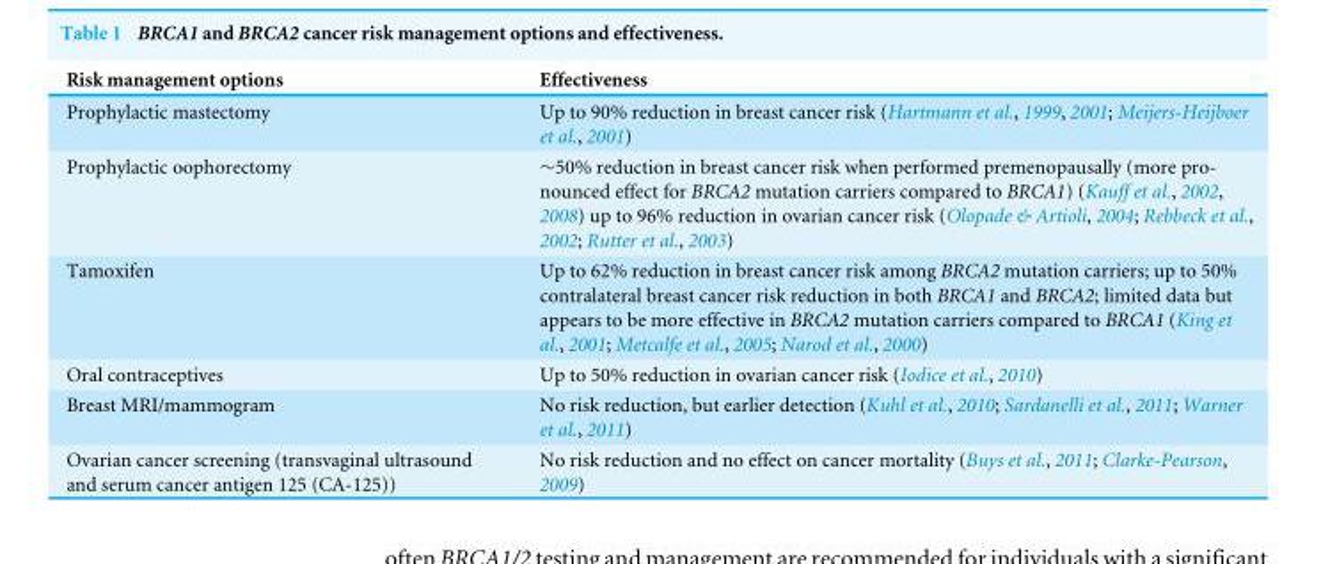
<table><thead><tr><td>Risk management options</td><td>Effectiveness</td></tr></thead><tbody><tr><td>Prophylactic mastectomy</td><td>Up to 90% reduction in breast cancer risk (Hartmann et al., 1999, 2001; Meijers-Heijboer et al., 2001)</td></tr><tr><td>Prophylactic oophorectomy</td><td>∼50% reduction in breast cancer risk when performed premenopausally (more pro- nounced effect for BRCA2 mutation carriers compared to BRCA1) (Kauff et al., 2002, 2008) up to 96% reduction in ovarian cancer risk (Olopade &amp; Artioli, 2004; Rebbeck et al., 2002; Rutter et al., 2003)</td></tr><tr><td>Tamoxifen</td><td>Up to 62% reduction in breast cancer risk among BRCA2 mutation carriers; up to 50% contralateral breast cancer risk reduction in both BRCA1 and BRCA2; limited data but appears to be more effective in BRCA2 mutation carriers compared to BRCA1 (King et al., 2001; Metcalfe et al., 2005; Narod et al., 2000)</td></tr><tr><td>Oral contraceptives</td><td>Up to 50% reduction in ovarian cancer risk (Iodice et al., 2010)</td></tr><tr><td>Breast MRI/mammogram</td><td>No risk reduction, but earlier detection (Kuhl et al., 2010; Sardanelli et al., 2011; Warner et al., 2011)</td></tr><tr><td>Ovarian cancer screening (transvaginal ultrasound and serum cancer antigen 125 (CA-125))</td><td>No risk reduction and no effect on cancer mortality (Buys et al., 2011; Clarke-Pearson, 2009)</td></tr></tbody></table>